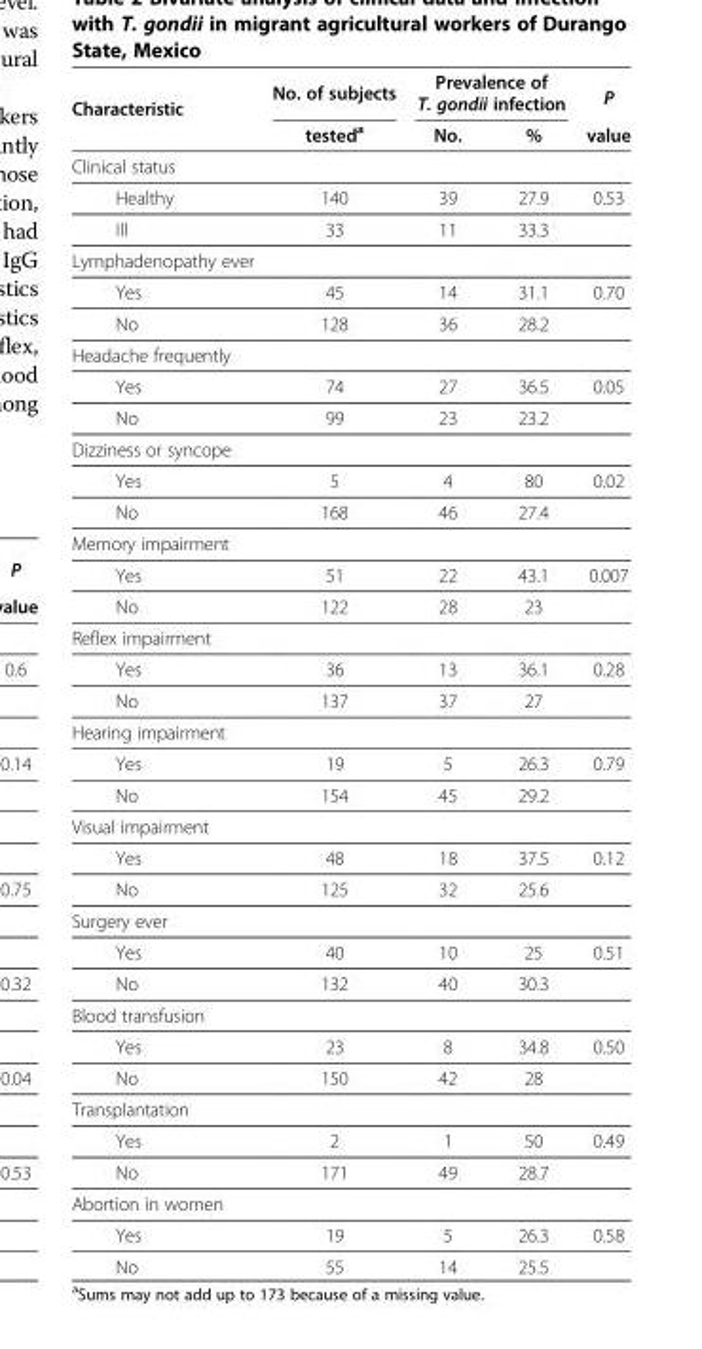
<table><thead><tr><td rowspan="2">Characteristic</td><td rowspan="2">No. of subjects tested<sup>a</sup></td><td colspan="2">Prevalence of T. gondii infection</td><td rowspan="2">P value</td></tr><tr><td>No.</td><td>%</td></tr></thead><tbody><tr><td colspan="5">Clinical status</td></tr><tr><td>Healthy</td><td>140</td><td>39</td><td>27.9</td><td>0.53</td></tr><tr><td>Ill</td><td>33</td><td>11</td><td>33.3</td><td></td></tr><tr><td colspan="5">Lymphadenopathy ever</td></tr><tr><td>Yes</td><td>45</td><td>14</td><td>31.1</td><td>0.70</td></tr><tr><td>No</td><td>128</td><td>36</td><td>28.2</td><td></td></tr><tr><td colspan="5">Headache frequently</td></tr><tr><td>Yes</td><td>74</td><td>27</td><td>36.5</td><td>0.05</td></tr><tr><td>No</td><td>99</td><td>23</td><td>23.2</td><td></td></tr><tr><td colspan="5">Dizziness or syncope</td></tr><tr><td>Yes</td><td>5</td><td>4</td><td>80</td><td>0.02</td></tr><tr><td>No</td><td>168</td><td>46</td><td>27.4</td><td></td></tr><tr><td colspan="5">Memory impairment</td></tr><tr><td>Yes</td><td>51</td><td>22</td><td>43.1</td><td>0.007</td></tr><tr><td>No</td><td>122</td><td>28</td><td>23</td><td></td></tr><tr><td colspan="5">Reflex impairment</td></tr><tr><td>Yes</td><td>36</td><td>13</td><td>36.1</td><td>0.28</td></tr><tr><td>No</td><td>137</td><td>37</td><td>27</td><td></td></tr><tr><td colspan="5">Hearing impairment</td></tr><tr><td>Yes</td><td>19</td><td>5</td><td>26.3</td><td>0.79</td></tr><tr><td>No</td><td>154</td><td>45</td><td>29.2</td><td></td></tr><tr><td colspan="5">Visual impairment</td></tr><tr><td>Yes</td><td>48</td><td>18</td><td>37.5</td><td>0.12</td></tr><tr><td>No</td><td>125</td><td>32</td><td>25.6</td><td></td></tr><tr><td colspan="5">Surgery ever</td></tr><tr><td>Yes</td><td>40</td><td>10</td><td>25</td><td>0.51</td></tr><tr><td>No</td><td>132</td><td>40</td><td>30.3</td><td></td></tr><tr><td colspan="5">Blood transfusion</td></tr><tr><td>Yes</td><td>23</td><td>8</td><td>34.8</td><td>0.50</td></tr><tr><td>No</td><td>150</td><td>42</td><td>28</td><td></td></tr><tr><td colspan="5">Transplantation</td></tr><tr><td>Yes</td><td>2</td><td>1</td><td>50</td><td>0.49</td></tr><tr><td>No</td><td>171</td><td>49</td><td>28.7</td><td></td></tr><tr><td colspan="5">Abortion in women</td></tr><tr><td>Yes</td><td>19</td><td>5</td><td>26.3</td><td>0.58</td></tr><tr><td>No</td><td>55</td><td>14</td><td>25.5</td><td></td></tr></tbody></table>